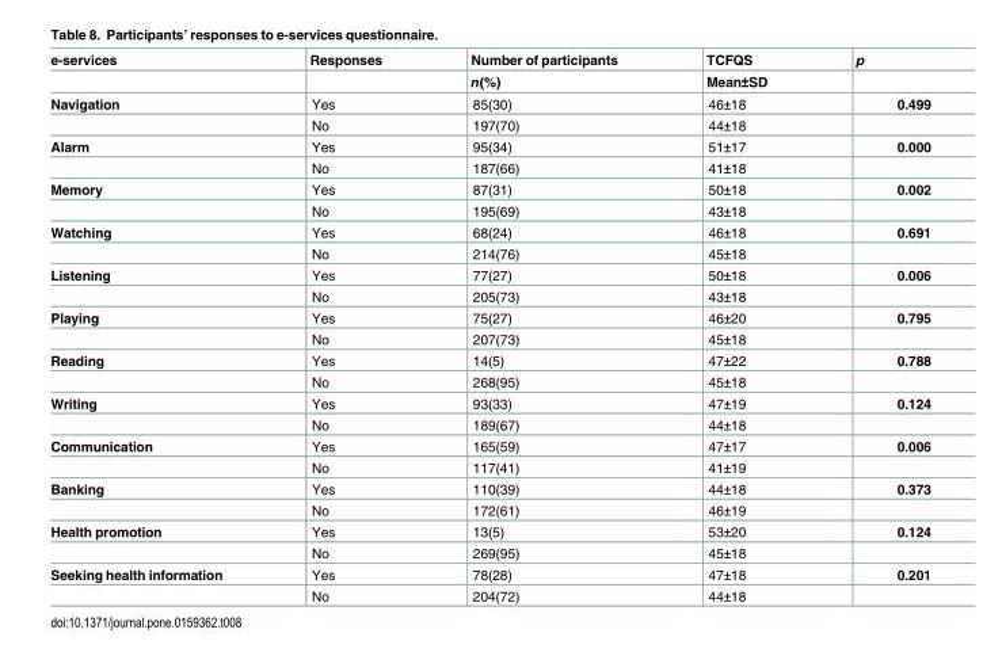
<table><thead><tr><td rowspan="2">e-services</td><td rowspan="2">Responses</td><td rowspan="2">Number of participants n(%)</td><td rowspan="2">TCFQS Mean±SD</td><td rowspan="2">p</td></tr><tr></tr></thead><tbody><tr><td rowspan="2">Navigation</td><td>Yes</td><td>85(30)</td><td>46±18</td><td>0.499</td></tr><tr><td>No</td><td>197(70)</td><td>44±18</td><td></td></tr><tr><td rowspan="2">Alarm</td><td>Yes</td><td>95(34)</td><td>51±17</td><td>0.000</td></tr><tr><td>No</td><td>187(66)</td><td>41±18</td><td></td></tr><tr><td rowspan="2">Memory</td><td>Yes</td><td>87(31)</td><td>50±18</td><td>0.002</td></tr><tr><td>No</td><td>195(69)</td><td>43±18</td><td></td></tr><tr><td rowspan="2">Watching</td><td>Yes</td><td>68(24)</td><td>46±18</td><td>0.691</td></tr><tr><td>No</td><td>214(76)</td><td>45±18</td><td></td></tr><tr><td rowspan="2">Listening</td><td>Yes</td><td>77(27)</td><td>50±18</td><td>0.006</td></tr><tr><td>No</td><td>205(73)</td><td>43±18</td><td></td></tr><tr><td rowspan="2">Playing</td><td>Yes</td><td>75(27)</td><td>46±20</td><td>0.795</td></tr><tr><td>No</td><td>207(73)</td><td>45±18</td><td></td></tr><tr><td rowspan="2">Reading</td><td>Yes</td><td>14(5)</td><td>47±22</td><td>0.788</td></tr><tr><td>No</td><td>268(95)</td><td>45±18</td><td></td></tr><tr><td rowspan="2">Writing</td><td>Yes</td><td>93(33)</td><td>47±19</td><td>0.124</td></tr><tr><td>No</td><td>189(67)</td><td>44±18</td><td></td></tr><tr><td rowspan="2">Communication</td><td>Yes</td><td>165(59)</td><td>47±17</td><td>0.006</td></tr><tr><td>No</td><td>117(41)</td><td>41±19</td><td></td></tr><tr><td rowspan="2">Banking</td><td>Yes</td><td>110(39)</td><td>44±18</td><td>0.373</td></tr><tr><td>No</td><td>172(61)</td><td>46±19</td><td></td></tr><tr><td rowspan="2">Health promotion</td><td>Yes</td><td>13(5)</td><td>53±20</td><td>0.124</td></tr><tr><td>No</td><td>269(95)</td><td>45±18</td><td></td></tr><tr><td rowspan="2">Seeking health information</td><td>Yes</td><td>78(28)</td><td>47±18</td><td>0.201</td></tr><tr><td>No</td><td>204(72)</td><td>44±18</td><td></td></tr></tbody></table>